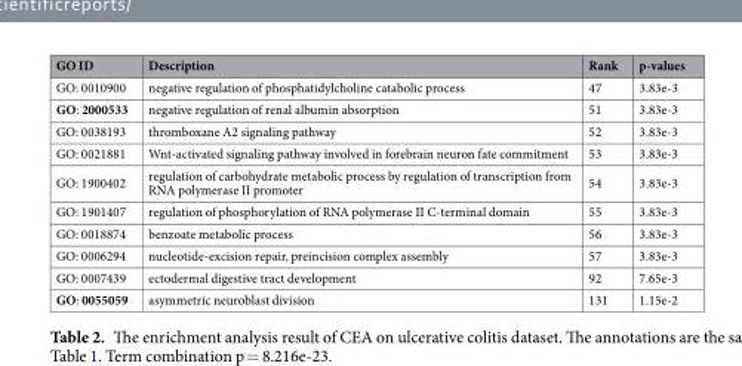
<table><thead><tr><td>GO ID</td><td>Description</td><td>Rank</td><td>p-values</td></tr></thead><tbody><tr><td>GO: 0010900</td><td>negative regulation of phosphatidylcholine catabolic process</td><td>47</td><td>3.83e-3</td></tr><tr><td>GO: 2000533</td><td>negative regulation of renal albumin absorption</td><td>51</td><td>3.83e-3</td></tr><tr><td>GO: 0038193</td><td>thromboxane A2 signaling pathway</td><td>52</td><td>3.83e-3</td></tr><tr><td>GO: 0021881</td><td>Wnt-activated signaling pathway involved in forebrain neuron fate commitment</td><td>53</td><td>3.83e-3</td></tr><tr><td>GO: 1900402</td><td>regulation of carbohydrate metabolic process by regulation of transcription from RNA polymerase II promoter</td><td>54</td><td>3.83e-3</td></tr><tr><td>GO: 1901407</td><td>regulation of phosphorylation of RNA polymerase II C-terminal domain</td><td>55</td><td>3.83e-3</td></tr><tr><td>GO: 0018874</td><td>benzoate metabolic process</td><td>56</td><td>3.83e-3</td></tr><tr><td>GO: 0006294</td><td>nucleotide-excision repair, preincision complex assembly</td><td>57</td><td>3.83e-3</td></tr><tr><td>GO: 0007439</td><td>ectodermal digestive tract development</td><td>92</td><td>7.65e-3</td></tr><tr><td>GO: 0055059</td><td>asymmetric neuroblast division</td><td>131</td><td>1.15e-2</td></tr></tbody></table>